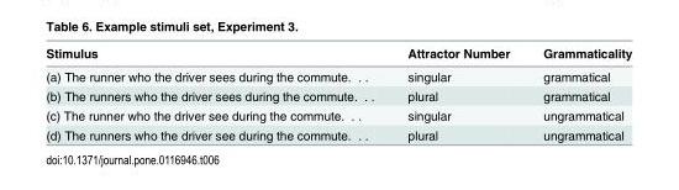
<table><thead><tr><td>Stimulus</td><td>Attractor Number</td><td>Grammaticality</td></tr></thead><tbody><tr><td>(a) The runner who the driver sees during the commute. . .</td><td>singular</td><td>grammatical</td></tr><tr><td>(b) The runners who the driver sees during the commute. . .</td><td>plural</td><td>grammatical</td></tr><tr><td>(c) The runner who the driver see during the commute. . .</td><td>singular</td><td>ungrammatical</td></tr><tr><td>(d) The runners who the driver see during the commute. . .</td><td>plural</td><td>ungrammatical</td></tr></tbody></table>